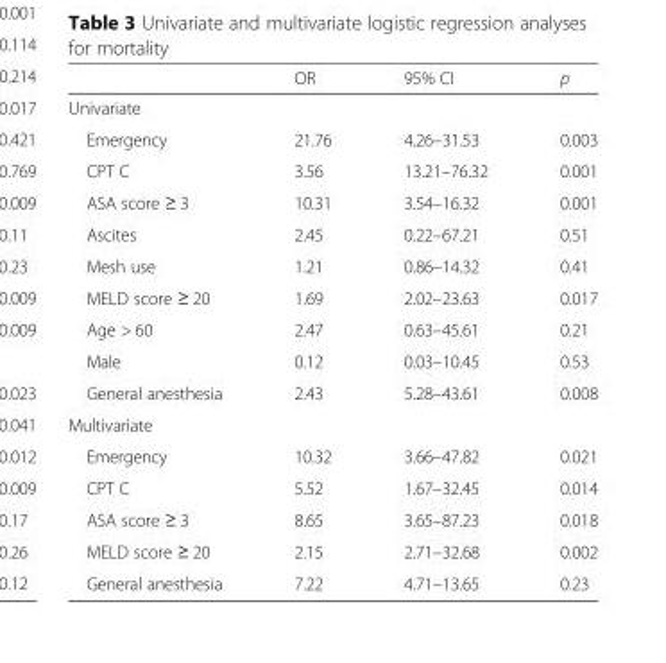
<table><thead><tr><td></td><td>OR</td><td>95% CI</td><td>p</td></tr></thead><tbody><tr><td colspan="4">Univariate</td></tr><tr><td>Emergency</td><td>21.76</td><td>4.26–31.53</td><td>0.003</td></tr><tr><td>CPT C</td><td>3.56</td><td>13.21–76.32</td><td>0.001</td></tr><tr><td>ASA score ≥ 3</td><td>10.31</td><td>3.54–16.32</td><td>0.001</td></tr><tr><td>Ascites</td><td>2.45</td><td>0.22–67.21</td><td>0.51</td></tr><tr><td>Mesh use</td><td>1.21</td><td>0.86–14.32</td><td>0.41</td></tr><tr><td>MELD score ≥ 20</td><td>1.69</td><td>2.02–23.63</td><td>0.017</td></tr><tr><td>Age &gt; 60</td><td>2.47</td><td>0.63–45.61</td><td>0.21</td></tr><tr><td>Male</td><td>0.12</td><td>0.03–10.45</td><td>0.53</td></tr><tr><td>General anesthesia</td><td>2.43</td><td>5.28–43.61</td><td>0.008</td></tr><tr><td colspan="4">Multivariate</td></tr><tr><td>Emergency</td><td>10.32</td><td>3.66–47.82</td><td>0.021</td></tr><tr><td>CPT C</td><td>5.52</td><td>1.67–32.45</td><td>0.014</td></tr><tr><td>ASA score ≥ 3</td><td>8.65</td><td>3.65–87.23</td><td>0.018</td></tr><tr><td>MELD score ≥ 20</td><td>2.15</td><td>2.71–32.68</td><td>0.002</td></tr><tr><td>General anesthesia</td><td>7.22</td><td>4.71–13.65</td><td>0.23</td></tr></tbody></table>